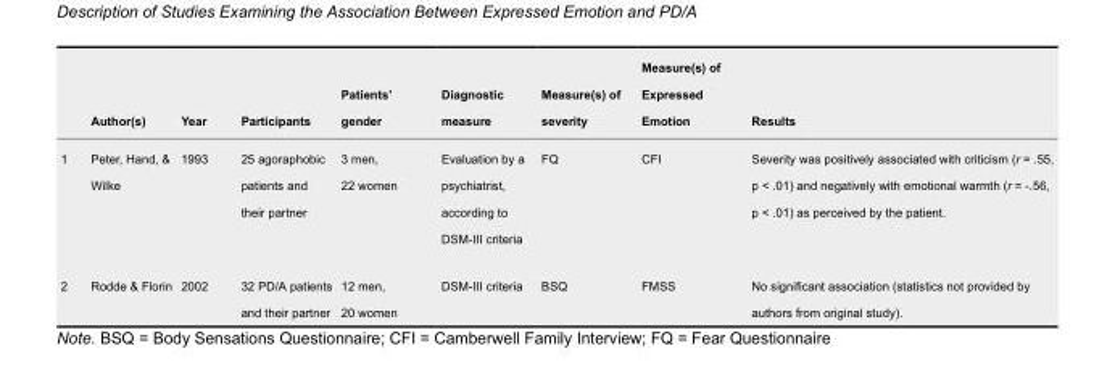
<table><thead><tr><td></td><td>Author(s)</td><td>Year</td><td>Participants</td><td>Patients’ gender</td><td>Diagnostic measure</td><td>Measure(s) of severity</td><td>Measure(s) of Expressed Emotion</td><td>Results</td></tr></thead><tbody><tr><td>1</td><td>Peter, Hand, &amp; Wilke</td><td>1993</td><td>25 agoraphobic patients and their partner</td><td>3 men, 22 women</td><td>Evaluation by a psychiatrist, according to DSM-III criteria</td><td>FQ</td><td>CFI</td><td>Severity was positively associated with criticism (r = .55, p &lt; .01) and negatively with emotional warmth (r = -.56, p &lt; .01) as perceived by the patient.</td></tr><tr><td>2</td><td>Rodde &amp; Florin</td><td>2002</td><td>32 PD/A patients and their partner</td><td>12 men, 20 women</td><td>DSM-III criteria</td><td>BSQ</td><td>FMSS</td><td>No significant association (statistics not provided by authors from original study).</td></tr></tbody></table>